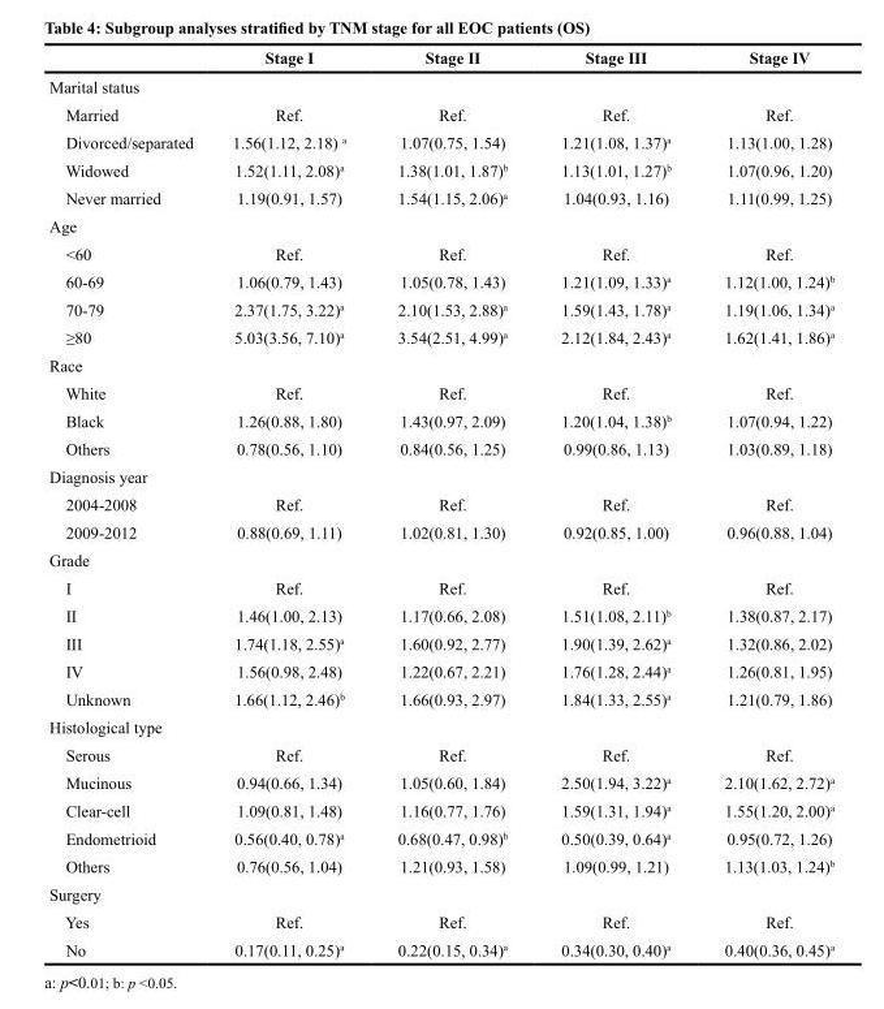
<table><thead><tr><td></td><td>Stage I</td><td>Stage II</td><td>Stage III</td><td>Stage IV</td></tr></thead><tbody><tr><td colspan="5">Marital status</td></tr><tr><td>Married</td><td>Ref.</td><td>Ref.</td><td>Ref.</td><td>Ref.</td></tr><tr><td>Divorced/separated</td><td>1.56(1.12, 2.18) <sup>a</sup></td><td>1.07(0.75, 1.54)</td><td>1.21(1.08, 1.37)<sup>a</sup></td><td>1.13(1.00, 1.28)</td></tr><tr><td>Widowed</td><td>1.52(1.11, 2.08)<sup>a</sup></td><td>1.38(1.01, 1.87)<sup>b</sup></td><td>1.13(1.01, 1.27)<sup>b</sup></td><td>1.07(0.96, 1.20)</td></tr><tr><td>Never married</td><td>1.19(0.91, 1.57)</td><td>1.54(1.15, 2.06)<sup>a</sup></td><td>1.04(0.93, 1.16)</td><td>1.11(0.99, 1.25)</td></tr><tr><td colspan="5">Age</td></tr><tr><td>&lt;60</td><td>Ref.</td><td>Ref.</td><td>Ref.</td><td>Ref.</td></tr><tr><td>60-69</td><td>1.06(0.79, 1.43)</td><td>1.05(0.78, 1.43)</td><td>1.21(1.09, 1.33)<sup>a</sup></td><td>1.12(1.00, 1.24)<sup>b</sup></td></tr><tr><td>70-79</td><td>2.37(1.75, 3.22)<sup>a</sup></td><td>2.10(1.53, 2.88)<sup>a</sup></td><td>1.59(1.43, 1.78)<sup>a</sup></td><td>1.19(1.06, 1.34)<sup>a</sup></td></tr><tr><td>≥80</td><td>5.03(3.56, 7.10)<sup>a</sup></td><td>3.54(2.51, 4.99)<sup>a</sup></td><td>2.12(1.84, 2.43)<sup>a</sup></td><td>1.62(1.41, 1.86)<sup>a</sup></td></tr><tr><td colspan="5">Race</td></tr><tr><td>White</td><td>Ref.</td><td>Ref.</td><td>Ref.</td><td>Ref.</td></tr><tr><td>Black</td><td>1.26(0.88, 1.80)</td><td>1.43(0.97, 2.09)</td><td>1.20(1.04, 1.38)<sup>b</sup></td><td>1.07(0.94, 1.22)</td></tr><tr><td>Others</td><td>0.78(0.56, 1.10)</td><td>0.84(0.56, 1.25)</td><td>0.99(0.86, 1.13)</td><td>1.03(0.89, 1.18)</td></tr><tr><td colspan="5">Diagnosis year</td></tr><tr><td>2004-2008</td><td>Ref.</td><td>Ref.</td><td>Ref.</td><td>Ref.</td></tr><tr><td>2009-2012</td><td>0.88(0.69, 1.11)</td><td>1.02(0.81, 1.30)</td><td>0.92(0.85, 1.00)</td><td>0.96(0.88, 1.04)</td></tr><tr><td colspan="5">Grade</td></tr><tr><td>I</td><td>Ref.</td><td>Ref.</td><td>Ref.</td><td>Ref.</td></tr><tr><td>II</td><td>1.46(1.00, 2.13)</td><td>1.17(0.66, 2.08)</td><td>1.51(1.08, 2.11)<sup>b</sup></td><td>1.38(0.87, 2.17)</td></tr><tr><td>III</td><td>1.74(1.18, 2.55)<sup>a</sup></td><td>1.60(0.92, 2.77)</td><td>1.90(1.39, 2.62)<sup>a</sup></td><td>1.32(0.86, 2.02)</td></tr><tr><td>IV</td><td>1.56(0.98, 2.48)</td><td>1.22(0.67, 2.21)</td><td>1.76(1.28, 2.44)<sup>a</sup></td><td>1.26(0.81, 1.95)</td></tr><tr><td>Unknown</td><td>1.66(1.12, 2.46)<sup>b</sup></td><td>1.66(0.93, 2.97)</td><td>1.84(1.33, 2.55)<sup>a</sup></td><td>1.21(0.79, 1.86)</td></tr><tr><td colspan="5">Histological type</td></tr><tr><td>Serous</td><td>Ref.</td><td>Ref.</td><td>Ref.</td><td>Ref.</td></tr><tr><td>Mucinous</td><td>0.94(0.66, 1.34)</td><td>1.05(0.60, 1.84)</td><td>2.50(1.94, 3.22)<sup>a</sup></td><td>2.10(1.62, 2.72)<sup>a</sup></td></tr><tr><td>Clear-cell</td><td>1.09(0.81, 1.48)</td><td>1.16(0.77, 1.76)</td><td>1.59(1.31, 1.94)<sup>a</sup></td><td>1.55(1.20, 2.00)<sup>a</sup></td></tr><tr><td>Endometrioid</td><td>0.56(0.40, 0.78)<sup>a</sup></td><td>0.68(0.47, 0.98)<sup>b</sup></td><td>0.50(0.39, 0.64)<sup>a</sup></td><td>0.95(0.72, 1.26)</td></tr><tr><td>Others</td><td>0.76(0.56, 1.04)</td><td>1.21(0.93, 1.58)</td><td>1.09(0.99, 1.21)</td><td>1.13(1.03, 1.24)<sup>b</sup></td></tr><tr><td colspan="5">Surgery</td></tr><tr><td>Yes</td><td>Ref.</td><td>Ref.</td><td>Ref.</td><td>Ref.</td></tr><tr><td>No</td><td>0.17(0.11, 0.25)<sup>a</sup></td><td>0.22(0.15, 0.34)<sup>a</sup></td><td>0.34(0.30, 0.40)<sup>a</sup></td><td>0.40(0.36, 0.45)<sup>a</sup></td></tr></tbody></table>